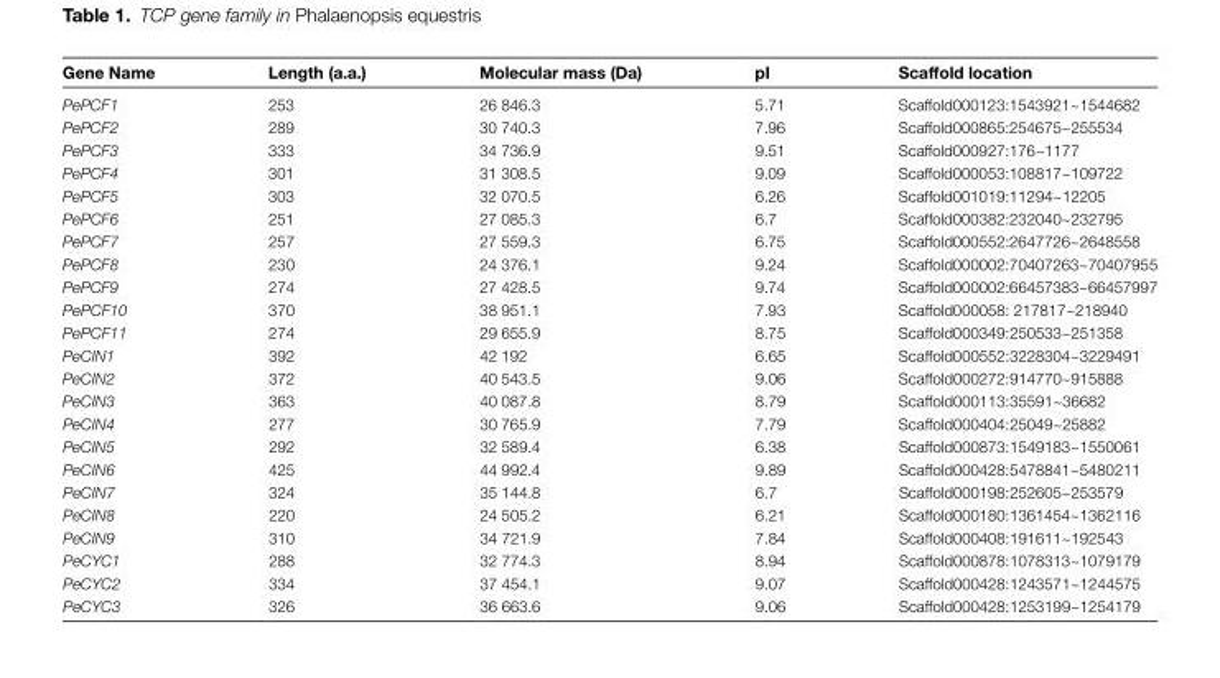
<table><thead><tr><td>Gene Name</td><td>Length (a.a.)</td><td>Molecular mass (Da)</td><td>pI</td><td>Scaffold location</td></tr></thead><tbody><tr><td>PePCF1</td><td>253</td><td>26 846.3</td><td>5.71</td><td>Scaffold000123:1543921~1544682</td></tr><tr><td>PePCF2</td><td>289</td><td>30 740.3</td><td>7.96</td><td>Scaffold000865:254675~255534</td></tr><tr><td>PePCF3</td><td>333</td><td>34 736.9</td><td>9.51</td><td>Scaffold000927:176~1177</td></tr><tr><td>PePCF4</td><td>301</td><td>31 308.5</td><td>9.09</td><td>Scaffold000053:108817~109722</td></tr><tr><td>PePCF5</td><td>303</td><td>32 070.5</td><td>6.26</td><td>Scaffold001019:11294~12205</td></tr><tr><td>PePCF6</td><td>251</td><td>27 085.3</td><td>6.7</td><td>Scaffold000382:232040~232795</td></tr><tr><td>PePCF7</td><td>257</td><td>27 559.3</td><td>6.75</td><td>Scaffold000552:2647726~2648558</td></tr><tr><td>PePCF8</td><td>230</td><td>24 376.1</td><td>9.24</td><td>Scaffold000002:70407263~70407955</td></tr><tr><td>PePCF9</td><td>274</td><td>27 428.5</td><td>9.74</td><td>Scaffold000002:66457383~66457997</td></tr><tr><td>PePCF10</td><td>370</td><td>38 951.1</td><td>7.93</td><td>Scaffold000058: 217817~218940</td></tr><tr><td>PePCF11</td><td>274</td><td>29 655.9</td><td>8.75</td><td>Scaffold000349:250533~251358</td></tr><tr><td>PeCIN1</td><td>392</td><td>42 192</td><td>6.65</td><td>Scaffold000552:3228304~3229491</td></tr><tr><td>PeCIN2</td><td>372</td><td>40 543.5</td><td>9.06</td><td>Scaffold000272:914770~915888</td></tr><tr><td>PeCIN3</td><td>363</td><td>40 087.8</td><td>8.79</td><td>Scaffold000113:35591~36682</td></tr><tr><td>PeCIN4</td><td>277</td><td>30 765.9</td><td>7.79</td><td>Scaffold000404:25049~25882</td></tr><tr><td>PeCIN5</td><td>292</td><td>32 589.4</td><td>6.38</td><td>Scaffold000873:1549183~1550061</td></tr><tr><td>PeCIN6</td><td>425</td><td>44 992.4</td><td>9.89</td><td>Scaffold000428:5478841~5480211</td></tr><tr><td>PeCIN7</td><td>324</td><td>35 144.8</td><td>6.7</td><td>Scaffold000198:252605~253579</td></tr><tr><td>PeCIN8</td><td>220</td><td>24 505.2</td><td>6.21</td><td>Scaffold000180:1361454~1362116</td></tr><tr><td>PeCIN9</td><td>310</td><td>34 721.9</td><td>7.84</td><td>Scaffold000408:191611~192543</td></tr><tr><td>PeCYC1</td><td>288</td><td>32 774.3</td><td>8.94</td><td>Scaffold000878:1078313~1079179</td></tr><tr><td>PeCYC2</td><td>334</td><td>37 454.1</td><td>9.07</td><td>Scaffold000428:1243571~1244575</td></tr><tr><td>PeCYC3</td><td>326</td><td>36 663.6</td><td>9.06</td><td>Scaffold000428:1253199~1254179</td></tr></tbody></table>